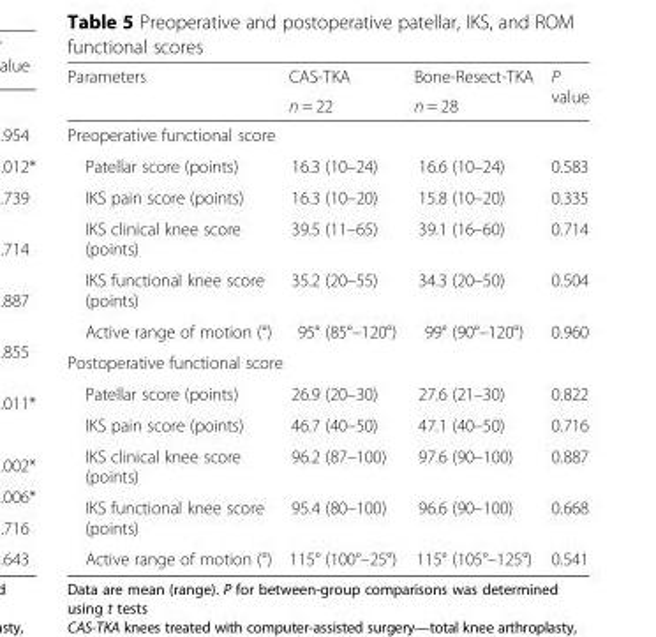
<table><thead><tr><td rowspan="2">Parameters</td><td rowspan="2">CAS-TKA n = 22</td><td rowspan="2">Bone-Resect-TKA n = 28</td><td rowspan="2">P value</td></tr><tr></tr></thead><tbody><tr><td colspan="4">Preoperative functional score</td></tr><tr><td>Patellar score (points)</td><td>16.3 (10–24)</td><td>16.6 (10–24)</td><td>0.583</td></tr><tr><td>IKS pain score (points)</td><td>16.3 (10–20)</td><td>15.8 (10–20)</td><td>0.335</td></tr><tr><td>IKS clinical knee score (points)</td><td>39.5 (11–65)</td><td>39.1 (16–60)</td><td>0.714</td></tr><tr><td>IKS functional knee score (points)</td><td>35.2 (20–55)</td><td>34.3 (20–50)</td><td>0.504</td></tr><tr><td>Active range of motion (°)</td><td>95° (85°–120°)</td><td>99° (90°–120°)</td><td>0.960</td></tr><tr><td colspan="4">Postoperative functional score</td></tr><tr><td>Patellar score (points)</td><td>26.9 (20–30)</td><td>27.6 (21–30)</td><td>0.822</td></tr><tr><td>IKS pain score (points)</td><td>46.7 (40–50)</td><td>47.1 (40–50)</td><td>0.716</td></tr><tr><td>IKS clinical knee score (points)</td><td>96.2 (87–100)</td><td>97.6 (90–100)</td><td>0.887</td></tr><tr><td>IKS functional knee score (points)</td><td>95.4 (80–100)</td><td>96.6 (90–100)</td><td>0.668</td></tr><tr><td>Active range of motion (°)</td><td>115° (100°–25°)</td><td>115° (105°–125°)</td><td>0.541</td></tr></tbody></table>